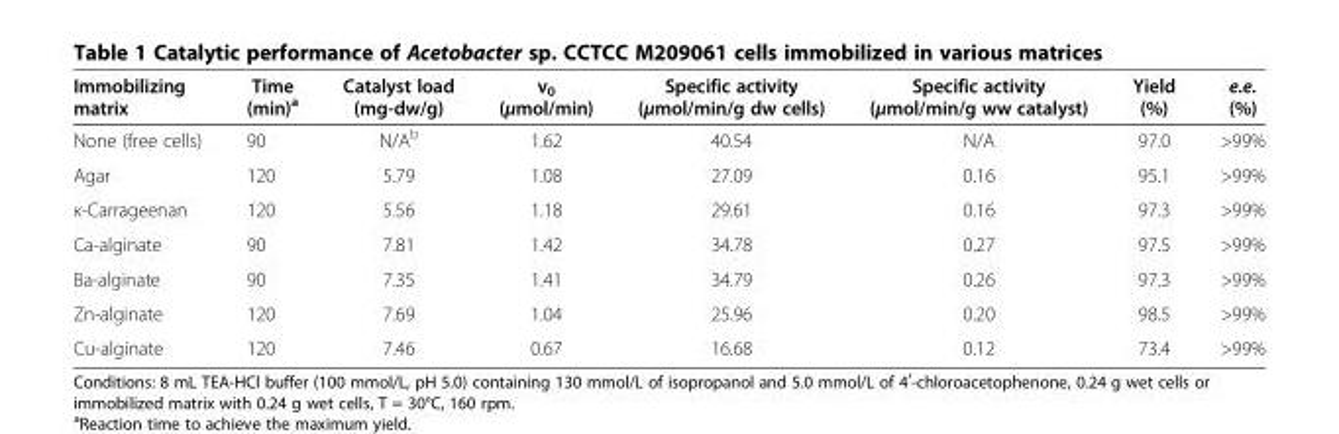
<table><thead><tr><td>Immobilizing matrix</td><td>Time (min)<sup>a</sup></td><td>Catalyst load (mg-dw/g)</td><td>v<sub>0</sub> (μmol/min)</td><td>Specific activity (μmol/min/g dw cells)</td><td>Specific activity (μmol/min/g ww catalyst)</td><td>Yield (%)</td><td>e.e. (%)</td></tr></thead><tbody><tr><td>None (free cells)</td><td>90</td><td>N/A<sup>b</sup></td><td>1.62</td><td>40.54</td><td>N/A</td><td>97.0</td><td>&gt;99%</td></tr><tr><td>Agar</td><td>120</td><td>5.79</td><td>1.08</td><td>27.09</td><td>0.16</td><td>95.1</td><td>&gt;99%</td></tr><tr><td>κ-Carrageenan</td><td>120</td><td>5.56</td><td>1.18</td><td>29.61</td><td>0.16</td><td>97.3</td><td>&gt;99%</td></tr><tr><td>Ca-alginate</td><td>90</td><td>7.81</td><td>1.42</td><td>34.78</td><td>0.27</td><td>97.5</td><td>&gt;99%</td></tr><tr><td>Ba-alginate</td><td>90</td><td>7.35</td><td>1.41</td><td>34.79</td><td>0.26</td><td>97.3</td><td>&gt;99%</td></tr><tr><td>Zn-alginate</td><td>120</td><td>7.69</td><td>1.04</td><td>25.96</td><td>0.20</td><td>98.5</td><td>&gt;99%</td></tr><tr><td>Cu-alginate</td><td>120</td><td>7.46</td><td>0.67</td><td>16.68</td><td>0.12</td><td>73.4</td><td>&gt;99%</td></tr></tbody></table>